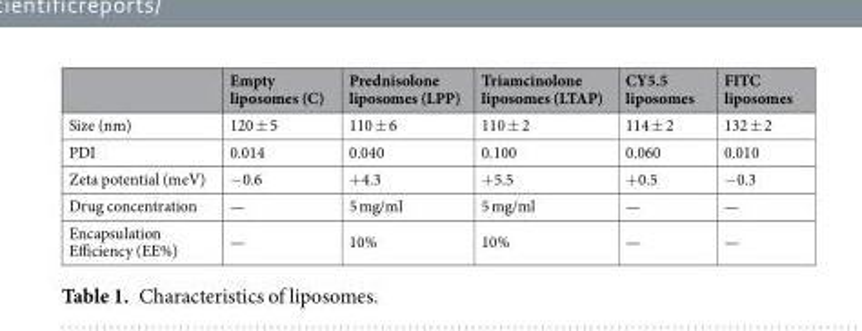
<table><thead><tr><td></td><td>Empty liposomes (C)</td><td>Prednisolone liposomes (LPP)</td><td>Triamcinolone liposomes (LTAP)</td><td>CY5.5 liposomes</td><td>FITC liposomes</td></tr></thead><tbody><tr><td>Size (nm)</td><td>120 ± 5</td><td>110 ± 6</td><td>110 ± 2</td><td>114 ± 2</td><td>132 ± 2</td></tr><tr><td>PDI</td><td>0.014</td><td>0.040</td><td>0.100</td><td>0.060</td><td>0.010</td></tr><tr><td>Zeta potential (meV)</td><td>−0.6</td><td>+4.3</td><td>+5.5</td><td>+0.5</td><td>−0.3</td></tr><tr><td>Drug concentration</td><td>—</td><td>5 mg/ml</td><td>5 mg/ml</td><td>—</td><td>—</td></tr><tr><td>Encapsulation Efficiency (EE%)</td><td>—</td><td>10%</td><td>10%</td><td>—</td><td>—</td></tr></tbody></table>